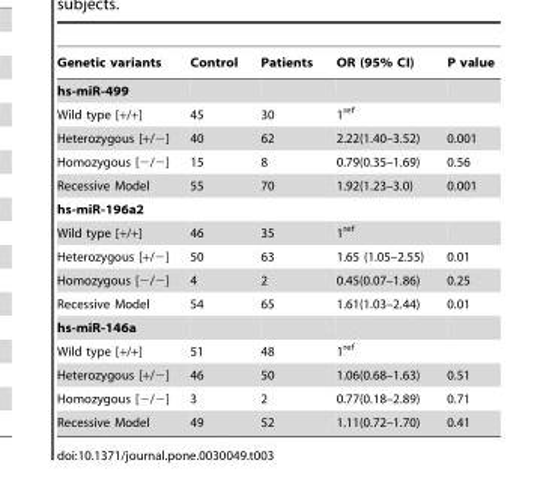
<table><thead><tr><td>Genetic variants</td><td>Control</td><td>Patients</td><td>OR (95% CI)</td><td>P value</td></tr></thead><tbody><tr><td colspan="5">hs-miR-499</td></tr><tr><td>Wild type [+/+]</td><td>45</td><td>30</td><td>1<sup>ref</sup></td><td></td></tr><tr><td>Heterozygous [+/−]</td><td>40</td><td>62</td><td>2.22(1.40–3.52)</td><td>0.001</td></tr><tr><td>Homozygous [−/−]</td><td>15</td><td>8</td><td>0.79(0.35–1.69)</td><td>0.56</td></tr><tr><td>Recessive Model</td><td>55</td><td>70</td><td>1.92(1.23–3.0)</td><td>0.001</td></tr><tr><td colspan="5">hs-miR-196a2</td></tr><tr><td>Wild type [+/+]</td><td>46</td><td>35</td><td>1<sup>ref</sup></td><td></td></tr><tr><td>Heterozygous [+/−]</td><td>50</td><td>63</td><td>1.65 (1.05–2.55)</td><td>0.01</td></tr><tr><td>Homozygous [−/−]</td><td>4</td><td>2</td><td>0.45(0.07–1.86)</td><td>0.25</td></tr><tr><td>Recessive Model</td><td>54</td><td>65</td><td>1.61(1.03–2.44)</td><td>0.01</td></tr><tr><td colspan="5">hs-miR-146a</td></tr><tr><td>Wild type [+/+]</td><td>51</td><td>48</td><td>1<sup>ref</sup></td><td></td></tr><tr><td>Heterozygous [+/−]</td><td>46</td><td>50</td><td>1.06(0.68–1.63)</td><td>0.51</td></tr><tr><td>Homozygous [−/−]</td><td>3</td><td>2</td><td>0.77(0.18–2.89)</td><td>0.71</td></tr><tr><td>Recessive Model</td><td>49</td><td>52</td><td>1.11(0.72–1.70)</td><td>0.41</td></tr></tbody></table>